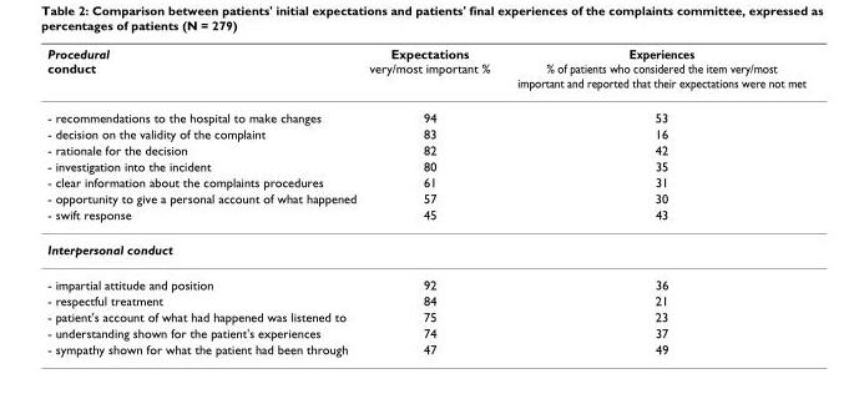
<table><thead><tr><td>Procedural conduct</td><td>Expectations very/most important %</td><td>Experiences % of patients who considered the item very/most important and reported that their expectations were not met</td></tr></thead><tbody><tr><td>- recommendations to the hospital to make changes</td><td>94</td><td>53</td></tr><tr><td>- decision on the validity of the complaint</td><td>83</td><td>16</td></tr><tr><td>- rationale for the decision</td><td>82</td><td>42</td></tr><tr><td>- investigation into the incident</td><td>80</td><td>35</td></tr><tr><td>- clear information about the complaints procedures</td><td>61</td><td>31</td></tr><tr><td>- opportunity to give a personal account of what happened</td><td>57</td><td>30</td></tr><tr><td>- swift response</td><td>45</td><td>43</td></tr><tr><td colspan="3">Interpersonal conduct</td></tr><tr><td>- impartial attitude and position</td><td>92</td><td>36</td></tr><tr><td>- respectful treatment</td><td>84</td><td>21</td></tr><tr><td>- patient&#x27;s account of what had happened was listened to</td><td>75</td><td>23</td></tr><tr><td>- understanding shown for the patient&#x27;s experiences</td><td>74</td><td>37</td></tr><tr><td>- sympathy shown for what the patient had been through</td><td>47</td><td>49</td></tr></tbody></table>